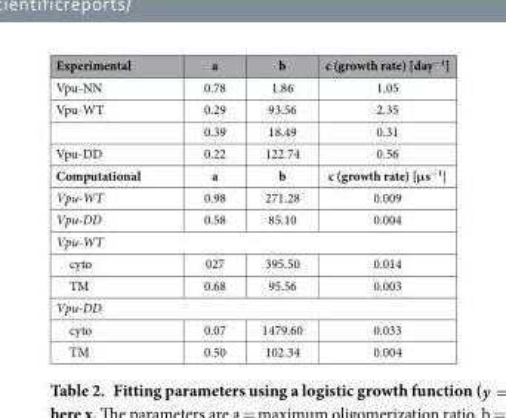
<table><thead><tr><td>Experimental</td><td>a</td><td>b</td><td>c (growth rate) [day<sup>−1</sup>]</td></tr></thead><tbody><tr><td>Vpu-NN</td><td>0.78</td><td>1.86</td><td>1.05</td></tr><tr><td rowspan="2">Vpu-WT</td><td>0.29</td><td>93.56</td><td>2.35</td></tr><tr><td>0.39</td><td>18.49</td><td>0.31</td></tr><tr><td>Vpu-DD</td><td>0.22</td><td>122.74</td><td>0.56</td></tr><tr><td>Computational</td><td>a</td><td>b</td><td>c (growth rate) [μs<sup>−1</sup>]</td></tr><tr><td>Vpu-WT</td><td>0.98</td><td>271.28</td><td>0.009</td></tr><tr><td>Vpu-DD</td><td>0.58</td><td>85.10</td><td>0.004</td></tr><tr><td colspan="4">Vpu-WT</td></tr><tr><td>cyto</td><td>027</td><td>395.50</td><td>0.014</td></tr><tr><td>TM</td><td>0.68</td><td>95.56</td><td>0.003</td></tr><tr><td colspan="4">Vpu-DD</td></tr><tr><td>cyto</td><td>0.07</td><td>1479.60</td><td>0.033</td></tr><tr><td>TM</td><td>0.50</td><td>102.34</td><td>0.004</td></tr></tbody></table>